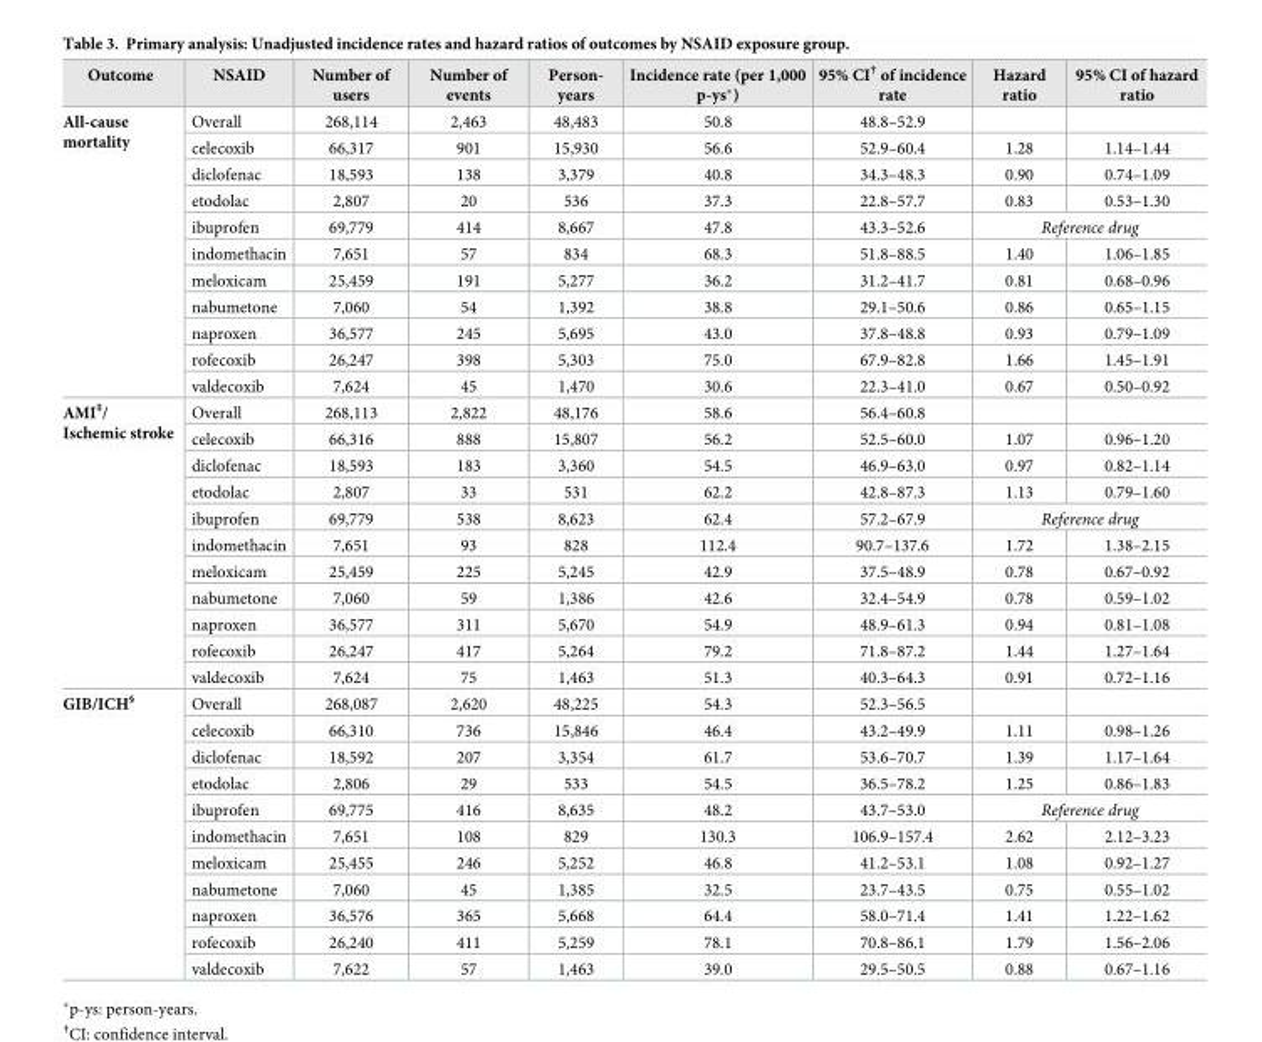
<table><thead><tr><td>Outcome</td><td>NSAID</td><td>Number of users</td><td>Number of events</td><td>Person- years</td><td>Incidence rate (per 1,000 p-ys*)</td><td>95% CI<sup>†</sup> of incidence rate</td><td>Hazard ratio</td><td>95% CI of hazard ratio</td></tr></thead><tbody><tr><td rowspan="11">All-cause mortality</td><td>Overall</td><td>268,114</td><td>2,463</td><td>48,483</td><td>50.8</td><td>48.8–52.9</td><td></td><td></td></tr><tr><td>celecoxib</td><td>66,317</td><td>901</td><td>15,930</td><td>56.6</td><td>52.9–60.4</td><td>1.28</td><td>1.14–1.44</td></tr><tr><td>diclofenac</td><td>18,593</td><td>138</td><td>3,379</td><td>40.8</td><td>34.3–48.3</td><td>0.90</td><td>0.74–1.09</td></tr><tr><td>etodolac</td><td>2,807</td><td>20</td><td>536</td><td>37.3</td><td>22.8–57.7</td><td>0.83</td><td>0.53–1.30</td></tr><tr><td>ibuprofen</td><td>69,779</td><td>414</td><td>8,667</td><td>47.8</td><td>43.3–52.6</td><td colspan="2">Reference drug</td></tr><tr><td>indomethacin</td><td>7,651</td><td>57</td><td>834</td><td>68.3</td><td>51.8–88.5</td><td>1.40</td><td>1.06–1.85</td></tr><tr><td>meloxicam</td><td>25,459</td><td>191</td><td>5,277</td><td>36.2</td><td>31.2–41.7</td><td>0.81</td><td>0.68–0.96</td></tr><tr><td>nabumetone</td><td>7,060</td><td>54</td><td>1,392</td><td>38.8</td><td>29.1–50.6</td><td>0.86</td><td>0.65–1.15</td></tr><tr><td>naproxen</td><td>36,577</td><td>245</td><td>5,695</td><td>43.0</td><td>37.8–48.8</td><td>0.93</td><td>0.79–1.09</td></tr><tr><td>rofecoxib</td><td>26,247</td><td>398</td><td>5,303</td><td>75.0</td><td>67.9–82.8</td><td>1.66</td><td>1.45–1.91</td></tr><tr><td>valdecoxib</td><td>7,624</td><td>45</td><td>1,470</td><td>30.6</td><td>22.3–41.0</td><td>0.67</td><td>0.50–0.92</td></tr><tr><td rowspan="11">AMI<sup>‡</sup>/ Ischemic stroke</td><td>Overall</td><td>268,113</td><td>2,822</td><td>48,176</td><td>58.6</td><td>56.4–60.8</td><td></td><td></td></tr><tr><td>celecoxib</td><td>66,316</td><td>888</td><td>15,807</td><td>56.2</td><td>52.5–60.0</td><td>1.07</td><td>0.96–1.20</td></tr><tr><td>diclofenac</td><td>18,593</td><td>183</td><td>3,360</td><td>54.5</td><td>46.9–63.0</td><td>0.97</td><td>0.82–1.14</td></tr><tr><td>etodolac</td><td>2,807</td><td>33</td><td>531</td><td>62.2</td><td>42.8–87.3</td><td>1.13</td><td>0.79–1.60</td></tr><tr><td>ibuprofen</td><td>69,779</td><td>538</td><td>8,623</td><td>62.4</td><td>57.2–67.9</td><td colspan="2">Reference drug</td></tr><tr><td>indomethacin</td><td>7,651</td><td>93</td><td>828</td><td>112.4</td><td>90.7–137.6</td><td>1.72</td><td>1.38–2.15</td></tr><tr><td>meloxicam</td><td>25,459</td><td>225</td><td>5,245</td><td>42.9</td><td>37.5–48.9</td><td>0.78</td><td>0.67–0.92</td></tr><tr><td>nabumetone</td><td>7,060</td><td>59</td><td>1,386</td><td>42.6</td><td>32.4–54.9</td><td>0.78</td><td>0.59–1.02</td></tr><tr><td>naproxen</td><td>36,577</td><td>311</td><td>5,670</td><td>54.9</td><td>48.9–61.3</td><td>0.94</td><td>0.81–1.08</td></tr><tr><td>rofecoxib</td><td>26,247</td><td>417</td><td>5,264</td><td>79.2</td><td>71.8–87.2</td><td>1.44</td><td>1.27–1.64</td></tr><tr><td>valdecoxib</td><td>7,624</td><td>75</td><td>1,463</td><td>51.3</td><td>40.3–64.3</td><td>0.91</td><td>0.72–1.16</td></tr><tr><td rowspan="11">GIB/ICH<sup>§</sup></td><td>Overall</td><td>268,087</td><td>2,620</td><td>48,225</td><td>54.3</td><td>52.3–56.5</td><td></td><td></td></tr><tr><td>celecoxib</td><td>66,310</td><td>736</td><td>15,846</td><td>46.4</td><td>43.2–49.9</td><td>1.11</td><td>0.98–1.26</td></tr><tr><td>diclofenac</td><td>18,592</td><td>207</td><td>3,354</td><td>61.7</td><td>53.6–70.7</td><td>1.39</td><td>1.17–1.64</td></tr><tr><td>etodolac</td><td>2,806</td><td>29</td><td>533</td><td>54.5</td><td>36.5–78.2</td><td>1.25</td><td>0.86–1.83</td></tr><tr><td>ibuprofen</td><td>69,775</td><td>416</td><td>8,635</td><td>48.2</td><td>43.7–53.0</td><td colspan="2">Reference drug</td></tr><tr><td>indomethacin</td><td>7,651</td><td>108</td><td>829</td><td>130.3</td><td>106.9–157.4</td><td>2.62</td><td>2.12–3.23</td></tr><tr><td>meloxicam</td><td>25,455</td><td>246</td><td>5,252</td><td>46.8</td><td>41.2–53.1</td><td>1.08</td><td>0.92–1.27</td></tr><tr><td>nabumetone</td><td>7,060</td><td>45</td><td>1,385</td><td>32.5</td><td>23.7–43.5</td><td>0.75</td><td>0.55–1.02</td></tr><tr><td>naproxen</td><td>36,576</td><td>365</td><td>5,668</td><td>64.4</td><td>58.0–71.4</td><td>1.41</td><td>1.22–1.62</td></tr><tr><td>rofecoxib</td><td>26,240</td><td>411</td><td>5,259</td><td>78.1</td><td>70.8–86.1</td><td>1.79</td><td>1.56–2.06</td></tr><tr><td>valdecoxib</td><td>7,622</td><td>57</td><td>1,463</td><td>39.0</td><td>29.5–50.5</td><td>0.88</td><td>0.67–1.16</td></tr></tbody></table>